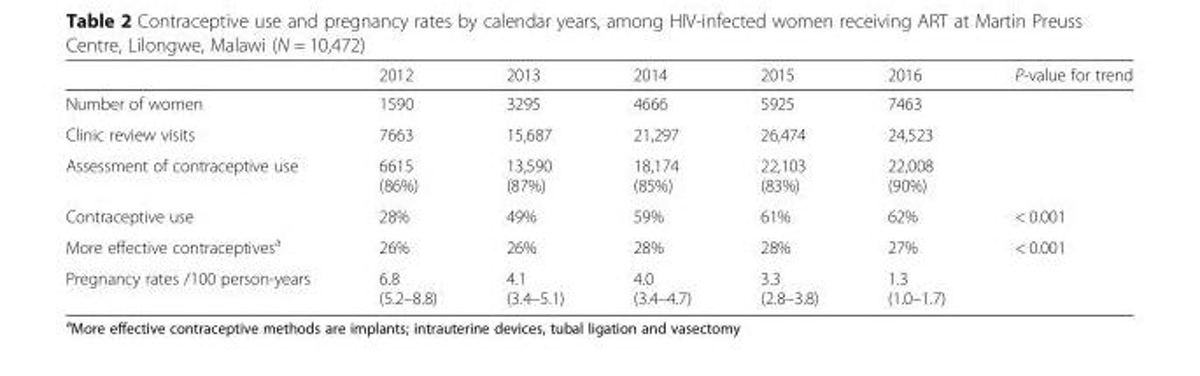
<table><thead><tr><td></td><td>2012</td><td>2013</td><td>2014</td><td>2015</td><td>2016</td><td>P-value for trend</td></tr></thead><tbody><tr><td>Number of women</td><td>1590</td><td>3295</td><td>4666</td><td>5925</td><td>7463</td><td></td></tr><tr><td>Clinic review visits</td><td>7663</td><td>15,687</td><td>21,297</td><td>26,474</td><td>24,523</td><td></td></tr><tr><td>Assessment of contraceptive use</td><td>6615 (86%)</td><td>13,590 (87%)</td><td>18,174 (85%)</td><td>22,103 (83%)</td><td>22,008 (90%)</td><td></td></tr><tr><td>Contraceptive use</td><td>28%</td><td>49%</td><td>59%</td><td>61%</td><td>62%</td><td>&lt; 0.001</td></tr><tr><td>More effective contraceptives<sup>a</sup></td><td>26%</td><td>26%</td><td>28%</td><td>28%</td><td>27%</td><td>&lt; 0.001</td></tr><tr><td>Pregnancy rates /100 person-years</td><td>6.8 (5.2–8.8)</td><td>4.1 (3.4–5.1)</td><td>4.0 (3.4–4.7)</td><td>3.3 (2.8–3.8)</td><td>1.3 (1.0–1.7)</td><td></td></tr></tbody></table>